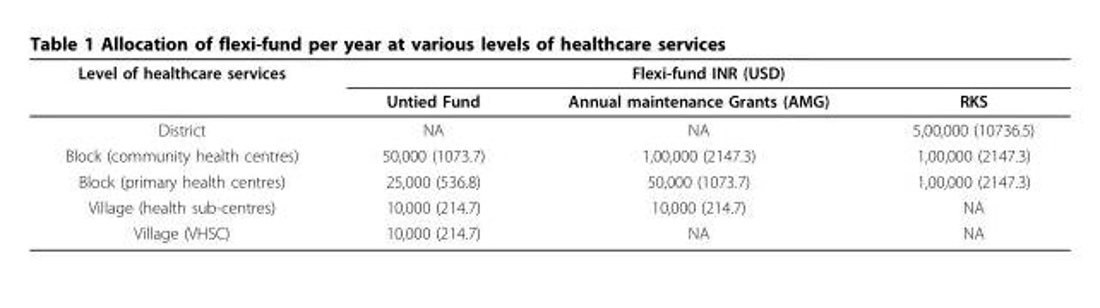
<table><thead><tr><td rowspan="2">Level of healthcare services</td><td colspan="3">Flexi-fund INR (USD)</td></tr><tr><td>Untied Fund</td><td>Annual maintenance Grants (AMG)</td><td>RKS</td></tr></thead><tbody><tr><td>District</td><td>NA</td><td>NA</td><td>5,00,000 (10736.5)</td></tr><tr><td>Block (community health centres)</td><td>50,000 (1073.7)</td><td>1,00,000 (2147.3)</td><td>1,00,000 (2147.3)</td></tr><tr><td>Block (primary health centres)</td><td>25,000 (536.8)</td><td>50,000 (1073.7)</td><td>1,00,000 (2147.3)</td></tr><tr><td>Village (health sub-centres)</td><td>10,000 (214.7)</td><td>10,000 (214.7)</td><td>NA</td></tr><tr><td>Village (VHSC)</td><td>10,000 (214.7)</td><td>NA</td><td>NA</td></tr></tbody></table>